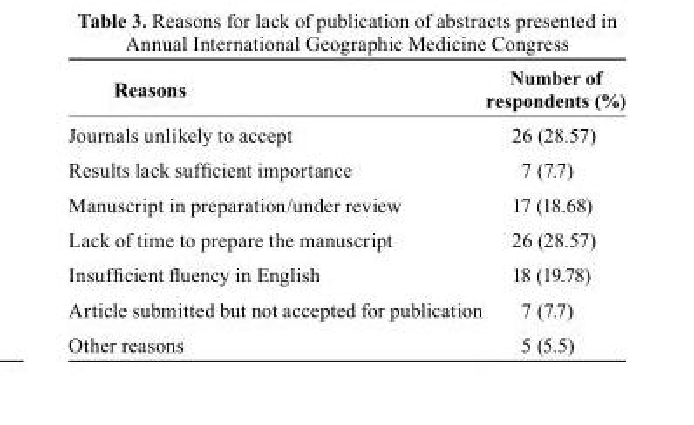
<table><thead><tr><td>reasons</td><td>Number of respondents (%)</td></tr></thead><tbody><tr><td>Journals unlikely to accept</td><td>26 (28.57)</td></tr><tr><td>Results lack sufficient importance</td><td>7 (7.7)</td></tr><tr><td>Manuscript in preparation/under review</td><td>17 (18.68)</td></tr><tr><td>Lack of time to prepare the manuscript</td><td>26 (28.57)</td></tr><tr><td>Insufficient fluency in English</td><td>18 (19.78)</td></tr><tr><td>Article submitted but not accepted for publication</td><td>7 (7.7)</td></tr><tr><td>Other reasons</td><td>5 (5.5)</td></tr></tbody></table>